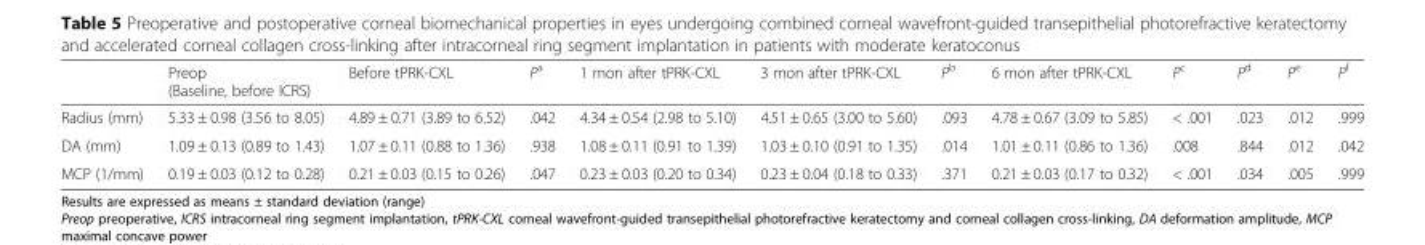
<table><thead><tr><td></td><td>Preop (Baseline, before ICRS)</td><td>Before tPRK-CXL</td><td>P<sup>a</sup></td><td>1 mon after tPRK-CXL</td><td>3 mon after tPRK-CXL</td><td>P<sup>b</sup></td><td>6 mon after tPRK-CXL</td><td>P<sup>c</sup></td><td>P<sup>d</sup></td><td>P<sup>e</sup></td><td>P<sup>f</sup></td></tr></thead><tbody><tr><td>Radius (mm)</td><td>5.33 ± 0.98 (3.56 to 8.05)</td><td>4.89 ± 0.71 (3.89 to 6.52)</td><td>.042</td><td>4.34 ± 0.54 (2.98 to 5.10)</td><td>4.51 ± 0.65 (3.00 to 5.60)</td><td>.093</td><td>4.78 ± 0.67 (3.09 to 5.85)</td><td>&lt; .001</td><td>.023</td><td>.012</td><td>.999</td></tr><tr><td>DA (mm)</td><td>1.09 ± 0.13 (0.89 to 1.43)</td><td>1.07 ± 0.11 (0.88 to 1.36)</td><td>.938</td><td>1.08 ± 0.11 (0.91 to 1.39)</td><td>1.03 ± 0.10 (0.91 to 1.35)</td><td>.014</td><td>1.01 ± 0.11 (0.86 to 1.36)</td><td>.008</td><td>.844</td><td>.012</td><td>.042</td></tr><tr><td>MCP (1/mm)</td><td>0.19 ± 0.03 (0.12 to 0.28)</td><td>0.21 ± 0.03 (0.15 to 0.26)</td><td>.047</td><td>0.23 ± 0.03 (0.20 to 0.34)</td><td>0.23 ± 0.04 (0.18 to 0.33)</td><td>.371</td><td>0.21 ± 0.03 (0.17 to 0.32)</td><td>&lt; .001</td><td>.034</td><td>.005</td><td>.999</td></tr></tbody></table>